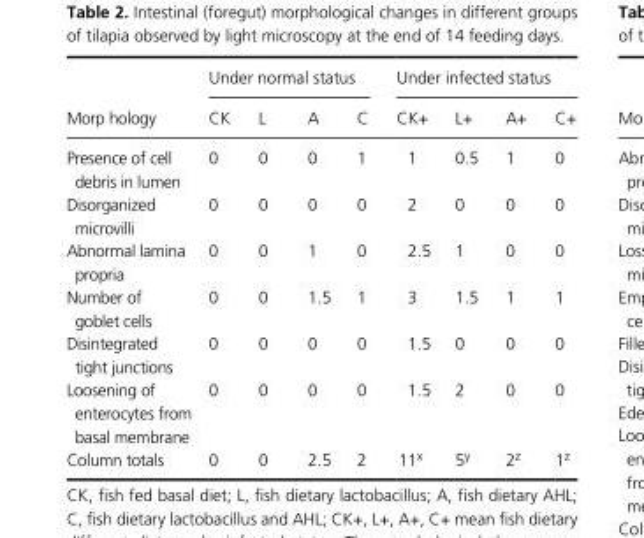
<table><thead><tr><td rowspan="2">Morp hology</td><td colspan="4">Under normal status</td><td colspan="4">Under infected status</td></tr><tr><td>CK</td><td>L</td><td>A</td><td>C</td><td>CK+</td><td>L+</td><td>A+</td><td>C+</td></tr></thead><tbody><tr><td>Presence of cell debris in lumen</td><td>0</td><td>0</td><td>0</td><td>1</td><td>1</td><td>0.5</td><td>1</td><td>0</td></tr><tr><td>Disorganized microvilli</td><td>0</td><td>0</td><td>0</td><td>0</td><td>2</td><td>0</td><td>0</td><td>0</td></tr><tr><td>Abnormal lamina propria</td><td>0</td><td>0</td><td>1</td><td>0</td><td>2.5</td><td>1</td><td>0</td><td>0</td></tr><tr><td>Number of goblet cells</td><td>0</td><td>0</td><td>1.5</td><td>1</td><td>3</td><td>1.5</td><td>1</td><td>1</td></tr><tr><td>Disintegrated tight junctions</td><td>0</td><td>0</td><td>0</td><td>0</td><td>1.5</td><td>0</td><td>0</td><td>0</td></tr><tr><td>Loosening of enterocytes from basal membrane</td><td>0</td><td>0</td><td>0</td><td>0</td><td>1.5</td><td>2</td><td>0</td><td>0</td></tr><tr><td>Column totals</td><td>0</td><td>0</td><td>2.5</td><td>2</td><td>11<sup>x</sup></td><td>5<sup>y</sup></td><td>2<sup>z</sup></td><td>1<sup>z</sup></td></tr></tbody></table>